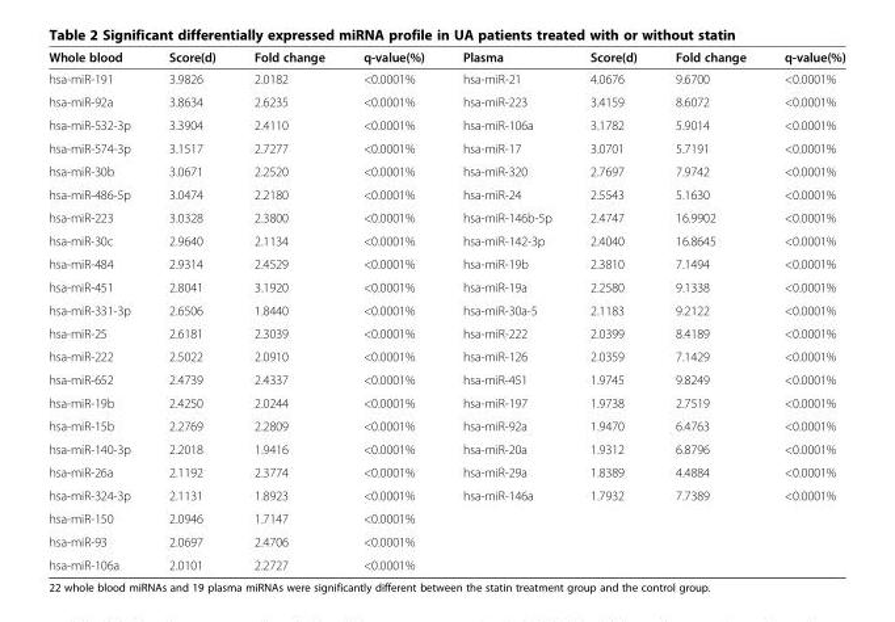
<table><thead><tr><td>Whole blood</td><td>Score(d)</td><td>Fold change</td><td>q-value(%)</td><td>Plasma</td><td>Score(d)</td><td>Fold change</td><td>q-value(%)</td></tr></thead><tbody><tr><td>hsa-miR-191</td><td>3.9826</td><td>2.0182</td><td>&lt;0.0001%</td><td>hsa-miR-21</td><td>4.0676</td><td>9.6700</td><td>&lt;0.0001%</td></tr><tr><td>hsa-miR-92a</td><td>3.8634</td><td>2.6235</td><td>&lt;0.0001%</td><td>hsa-miR-223</td><td>3.4159</td><td>8.6072</td><td>&lt;0.0001%</td></tr><tr><td>hsa-miR-532-3p</td><td>3.3904</td><td>2.4110</td><td>&lt;0.0001%</td><td>hsa-miR-106a</td><td>3.1782</td><td>5.9014</td><td>&lt;0.0001%</td></tr><tr><td>hsa-miR-574-3p</td><td>3.1517</td><td>2.7277</td><td>&lt;0.0001%</td><td>hsa-miR-17</td><td>3.0701</td><td>5.7191</td><td>&lt;0.0001%</td></tr><tr><td>hsa-miR-30b</td><td>3.0671</td><td>2.2520</td><td>&lt;0.0001%</td><td>hsa-miR-320</td><td>2.7697</td><td>7.9742</td><td>&lt;0.0001%</td></tr><tr><td>hsa-miR-486-5p</td><td>3.0474</td><td>2.2180</td><td>&lt;0.0001%</td><td>hsa-miR-24</td><td>2.5543</td><td>5.1630</td><td>&lt;0.0001%</td></tr><tr><td>hsa-miR-223</td><td>3.0328</td><td>2.3800</td><td>&lt;0.0001%</td><td>hsa-miR-146b-5p</td><td>2.4747</td><td>16.9902</td><td>&lt;0.0001%</td></tr><tr><td>hsa-miR-30c</td><td>2.9640</td><td>2.1134</td><td>&lt;0.0001%</td><td>hsa-miR-142-3p</td><td>2.4040</td><td>16.8645</td><td>&lt;0.0001%</td></tr><tr><td>hsa-miR-484</td><td>2.9314</td><td>2.4529</td><td>&lt;0.0001%</td><td>hsa-miR-19b</td><td>2.3810</td><td>7.1494</td><td>&lt;0.0001%</td></tr><tr><td>hsa-miR-451</td><td>2.8041</td><td>3.1920</td><td>&lt;0.0001%</td><td>hsa-miR-19a</td><td>2.2580</td><td>9.1338</td><td>&lt;0.0001%</td></tr><tr><td>hsa-miR-331-3p</td><td>2.6506</td><td>1.8440</td><td>&lt;0.0001%</td><td>hsa-miR-30a-5</td><td>2.1183</td><td>9.2122</td><td>&lt;0.0001%</td></tr><tr><td>hsa-miR-25</td><td>2.6181</td><td>2.3039</td><td>&lt;0.0001%</td><td>hsa-miR-222</td><td>2.0399</td><td>8.4189</td><td>&lt;0.0001%</td></tr><tr><td>hsa-miR-222</td><td>2.5022</td><td>2.0910</td><td>&lt;0.0001%</td><td>hsa-miR-126</td><td>2.0359</td><td>7.1429</td><td>&lt;0.0001%</td></tr><tr><td>hsa-miR-652</td><td>2.4739</td><td>2.4337</td><td>&lt;0.0001%</td><td>hsa-miR-451</td><td>1.9745</td><td>9.8249</td><td>&lt;0.0001%</td></tr><tr><td>hsa-miR-19b</td><td>2.4250</td><td>2.0244</td><td>&lt;0.0001%</td><td>hsa-miR-197</td><td>1.9738</td><td>2.7519</td><td>&lt;0.0001%</td></tr><tr><td>hsa-miR-15b</td><td>2.2769</td><td>2.2809</td><td>&lt;0.0001%</td><td>hsa-miR-92a</td><td>1.9470</td><td>6.4763</td><td>&lt;0.0001%</td></tr><tr><td>hsa-miR-140-3p</td><td>2.2018</td><td>1.9416</td><td>&lt;0.0001%</td><td>hsa-miR-20a</td><td>1.9312</td><td>6.8796</td><td>&lt;0.0001%</td></tr><tr><td>hsa-miR-26a</td><td>2.1192</td><td>2.3774</td><td>&lt;0.0001%</td><td>hsa-miR-29a</td><td>1.8389</td><td>4.4884</td><td>&lt;0.0001%</td></tr><tr><td>hsa-miR-324-3p</td><td>2.1131</td><td>1.8923</td><td>&lt;0.0001%</td><td>hsa-miR-146a</td><td>1.7932</td><td>7.7389</td><td>&lt;0.0001%</td></tr><tr><td>hsa-miR-150</td><td>2.0946</td><td>1.7147</td><td>&lt;0.0001%</td><td></td><td></td><td></td><td></td></tr><tr><td>hsa-miR-93</td><td>2.0697</td><td>2.4706</td><td>&lt;0.0001%</td><td></td><td></td><td></td><td></td></tr><tr><td>hsa-miR-106a</td><td>2.0101</td><td>2.2727</td><td>&lt;0.0001%</td><td></td><td></td><td></td><td></td></tr></tbody></table>